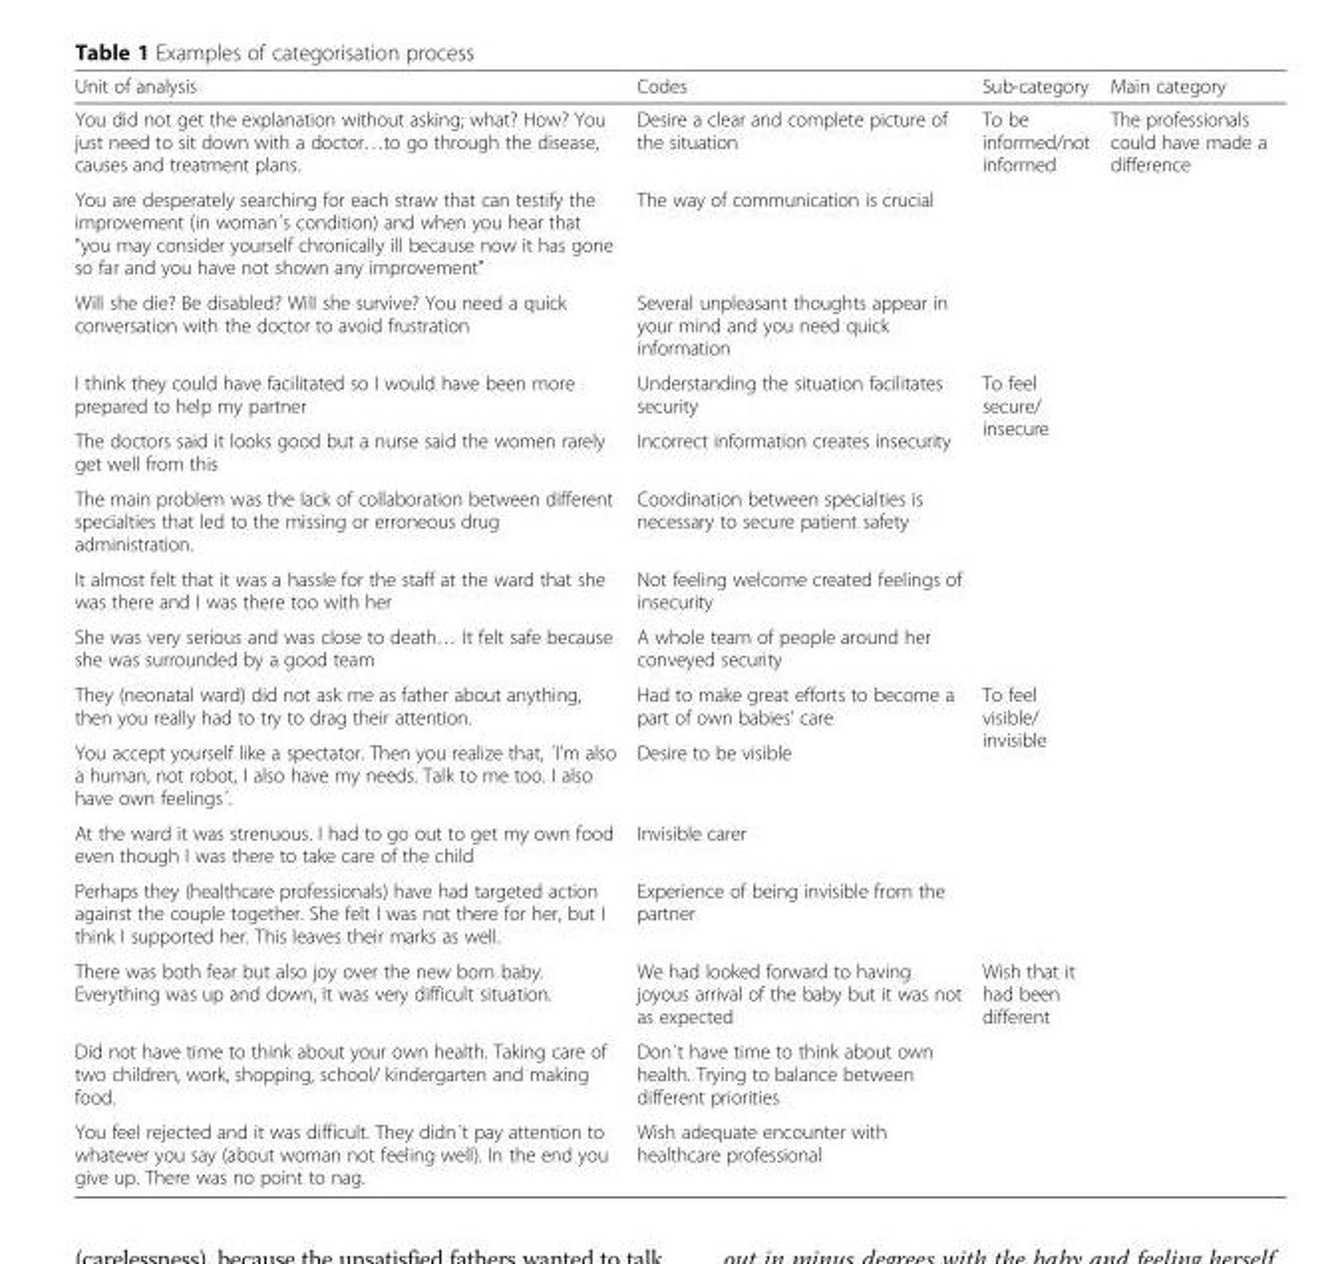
<table><thead><tr><td>Unit of analysis</td><td>Codes</td><td>Sub-category</td><td>Main category</td></tr></thead><tbody><tr><td>You did not get the explanation without asking; what? How? You just need to sit down with a doctor…to go through the disease, causes and treatment plans.</td><td>Desire a clear and complete picture of the situation</td><td rowspan="3">To be informed/not informed</td><td rowspan="15">The professionals could have made a difference</td></tr><tr><td>You are desperately searching for each straw that can testify the improvement (in woman´s condition) and when you hear that &quot;you may consider yourself chronically ill because now it has gone so far and you have not shown any improvement&quot;</td><td>The way of communication is crucial</td></tr><tr><td>Will she die? Be disabled? Will she survive? You need a quick conversation with the doctor to avoid frustration</td><td>Several unpleasant thoughts appear in your mind and you need quick information</td></tr><tr><td>I think they could have facilitated so I would have been more prepared to help my partner</td><td>Understanding the situation facilitates security</td><td rowspan="5">To feel secure/ insecure</td></tr><tr><td>The doctors said it looks good but a nurse said the women rarely get well from this</td><td>Incorrect information creates insecurity</td></tr><tr><td>The main problem was the lack of collaboration between different specialties that led to the missing or erroneous drug administration.</td><td>Coordination between specialties is necessary to secure patient safety</td></tr><tr><td>It almost felt that it was a hassle for the staff at the ward that she was there and I was there too with her</td><td>Not feeling welcome created feelings of insecurity</td></tr><tr><td>She was very serious and was close to death… It felt safe because she was surrounded by a good team</td><td>A whole team of people around her conveyed security</td></tr><tr><td>They (neonatal ward) did not ask me as father about anything, then you really had to try to drag their attention.</td><td>Had to make great efforts to become a part of own babies’ care</td><td rowspan="4">To feel visible/ invisible</td></tr><tr><td>You accept yourself like a spectator. Then you realize that, ´I&#x27;m also a human, not robot, I also have my needs. Talk to me too. I also have own feelings´.</td><td>Desire to be visible</td></tr><tr><td>At the ward it was strenuous. I had to go out to get my own food even though I was there to take care of the child</td><td>Invisible carer</td></tr><tr><td>Perhaps they (healthcare professionals) have had targeted action against the couple together. She felt I was not there for her, but I think I supported her. This leaves their marks as well.</td><td>Experience of being invisible from the partner</td></tr><tr><td>There was both fear but also joy over the new born baby. Everything was up and down, It was very difficult situation.</td><td>We had looked forward to having joyous arrival of the baby but it was not as expected</td><td rowspan="3">Wish that it had been different</td></tr><tr><td>Did not have time to think about your own health. Taking care of two children, work, shopping, school/ kindergarten and making food.</td><td>Don´t have time to think about own health. Trying to balance between different priorities</td></tr><tr><td>You feel rejected and it was difficult. They didn´t pay attention to whatever you say (about woman not feeling well). In the end you give up. There was no point to nag.</td><td>Wish adequate encounter with healthcare professional</td></tr></tbody></table>